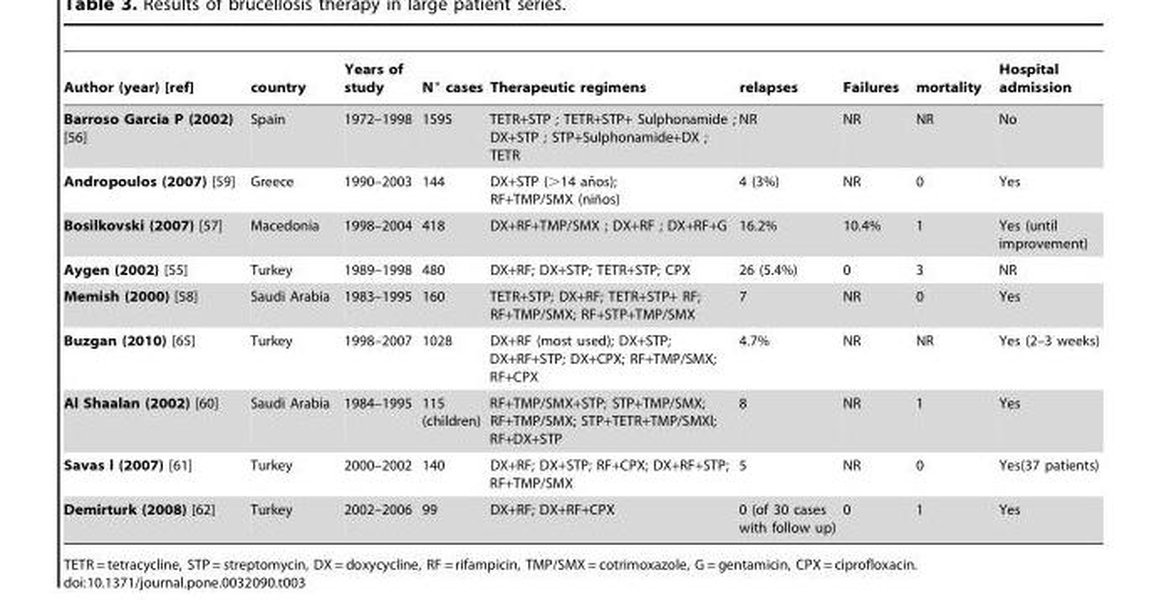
<table><thead><tr><td>Author (year) [ref]</td><td>country</td><td>Years of study</td><td>N° cases</td><td>Therapeutic regimens</td><td>relapses</td><td>Failures</td><td>mortality</td><td>Hospital admission</td></tr></thead><tbody><tr><td>Barroso Garcia P (2002) [56]</td><td>Spain</td><td>1972–1998</td><td>1595</td><td>TETR+STP ; TETR+STP+ Sulphonamide ; DX+STP ; STP+Sulphonamide+DX ; TETR</td><td>NR</td><td>NR</td><td>NR</td><td>No</td></tr><tr><td>Andropoulos (2007) [59]</td><td>Greece</td><td>1990–2003</td><td>144</td><td>DX+STP (.14 an˜os); RF+TMP/SMX (nin˜os)</td><td>4 (3%)</td><td>NR</td><td>0</td><td>Yes</td></tr><tr><td>Bosilkovski (2007) [57]</td><td>Macedonia</td><td>1998–2004</td><td>418</td><td>DX+RF+TMP/SMX ; DX+RF ; DX+RF+G</td><td>16.2%</td><td>10.4%</td><td>1</td><td>Yes (until improvement)</td></tr><tr><td>Aygen (2002) [55]</td><td>Turkey</td><td>1989–1998</td><td>480</td><td>DX+RF; DX+STP; TETR+STP; CPX</td><td>26 (5.4%)</td><td>0</td><td>3</td><td>NR</td></tr><tr><td>Memish (2000) [58]</td><td>Saudi Arabia</td><td>1983–1995</td><td>160</td><td>TETR+STP; DX+RF; TETR+STP+ RF; RF+TMP/SMX; RF+STP+TMP/SMX</td><td>7</td><td>NR</td><td>0</td><td>Yes</td></tr><tr><td>Buzgan (2010) [65]</td><td>Turkey</td><td>1998–2007</td><td>1028</td><td>DX+RF (most used); DX+STP; DX+RF+STP; DX+CPX; RF+TMP/SMX; RF+CPX</td><td>4.7%</td><td>NR</td><td>NR</td><td>Yes (2–3 weeks)</td></tr><tr><td>Al Shaalan (2002) [60]</td><td>Saudi Arabia</td><td>1984–1995</td><td>115 (children)</td><td>RF+TMP/SMX+STP; STP+TMP/SMX; RF+TMP/SMX; STP+TETR+TMP/SMXl; RF+DX+STP</td><td>8</td><td>NR</td><td>1</td><td>Yes</td></tr><tr><td>Savas l (2007) [61]</td><td>Turkey</td><td>2000–2002</td><td>140</td><td>DX+RF; DX+STP; RF+CPX; DX+RF+STP; RF+TMP/SMX</td><td>5</td><td>NR</td><td>0</td><td>Yes(37 patients)</td></tr><tr><td>Demirturk (2008) [62]</td><td>Turkey</td><td>2002–2006</td><td>99</td><td>DX+RF; DX+RF+CPX</td><td>0 (of 30 cases with follow up)</td><td>0</td><td>1</td><td>Yes</td></tr></tbody></table>